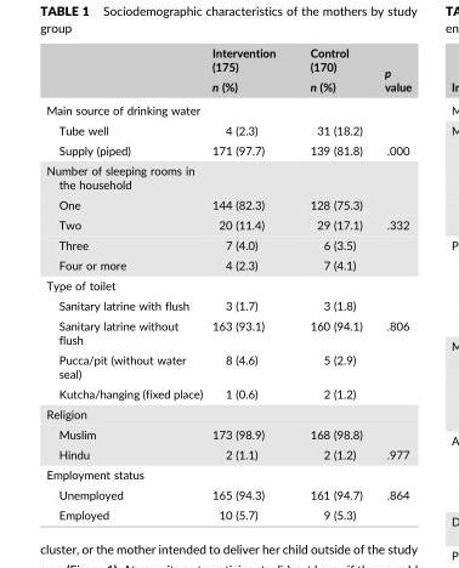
<table><thead><tr><td rowspan="2"></td><td rowspan="2">Intervention (175) n (%)</td><td rowspan="2">Control (170) n (%)</td><td rowspan="2">p value</td></tr><tr></tr></thead><tbody><tr><td colspan="4">Main source of drinking water</td></tr><tr><td>Tube well</td><td>4 (2.3)</td><td>31 (18.2)</td><td></td></tr><tr><td>Supply (piped)</td><td>171 (97.7)</td><td>139 (81.8)</td><td>.000</td></tr><tr><td colspan="4">Number of sleeping rooms in the household</td></tr><tr><td>One</td><td>144 (82.3)</td><td>128 (75.3)</td><td></td></tr><tr><td>Two</td><td>20 (11.4)</td><td>29 (17.1)</td><td>.332</td></tr><tr><td>Three</td><td>7 (4.0)</td><td>6 (3.5)</td><td></td></tr><tr><td>Four or more</td><td>4 (2.3)</td><td>7 (4.1)</td><td></td></tr><tr><td colspan="4">Type of toilet</td></tr><tr><td>Sanitary latrine with flush</td><td>3 (1.7)</td><td>3 (1.8)</td><td></td></tr><tr><td>Sanitary latrine without flush</td><td>163 (93.1)</td><td>160 (94.1)</td><td>.806</td></tr><tr><td>Pucca/pit (without water seal)</td><td>8 (4.6)</td><td>5 (2.9)</td><td></td></tr><tr><td>Kutcha/hanging (fixed place)</td><td>1 (0.6)</td><td>2 (1.2)</td><td></td></tr><tr><td colspan="4">Religion</td></tr><tr><td>Muslim</td><td>173 (98.9)</td><td>168 (98.8)</td><td></td></tr><tr><td>Hindu</td><td>2 (1.1)</td><td>2 (1.2)</td><td>.977</td></tr><tr><td colspan="4">Employment status</td></tr><tr><td>Unemployed</td><td>165 (94.3)</td><td>161 (94.7)</td><td>.864</td></tr><tr><td>Employed</td><td>10 (5.7)</td><td>9 (5.3)</td><td></td></tr></tbody></table>